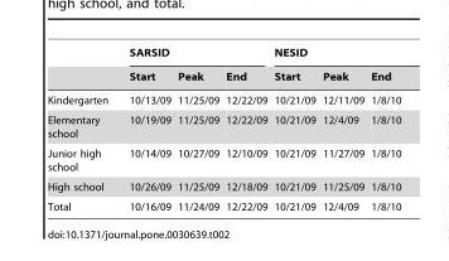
<table><thead><tr><td rowspan="2"></td><td colspan="3">SARSID</td><td colspan="3">NESID</td></tr><tr><td>Start</td><td>Peak</td><td>End</td><td>Start</td><td>Peak</td><td>End</td></tr></thead><tbody><tr><td>Kindergarten</td><td>10/13/09</td><td>11/25/09</td><td>12/22/09</td><td>10/21/09</td><td>12/11/09</td><td>1/8/10</td></tr><tr><td>Elementary school</td><td>10/19/09</td><td>11/25/09</td><td>12/22/09</td><td>10/21/09</td><td>12/4/09</td><td>1/8/10</td></tr><tr><td>Junior high school</td><td>10/14/09</td><td>10/27/09</td><td>12/10/09</td><td>10/21/09</td><td>11/27/09</td><td>1/8/10</td></tr><tr><td>High school</td><td>10/26/09</td><td>11/25/09</td><td>12/18/09</td><td>10/21/09</td><td>11/25/09</td><td>1/8/10</td></tr><tr><td>Total</td><td>10/16/09</td><td>11/24/09</td><td>12/22/09</td><td>10/21/09</td><td>12/4/09</td><td>1/8/10</td></tr></tbody></table>